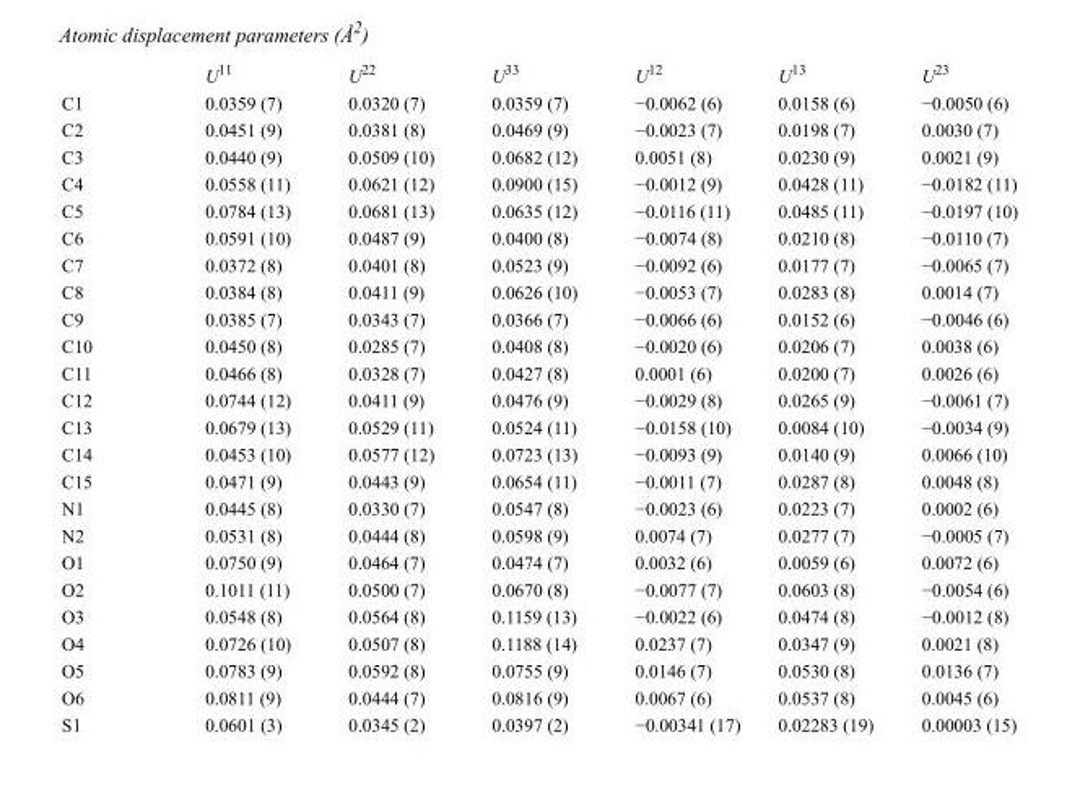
<table><thead><tr><td></td><td>U<sup>11</sup></td><td>U<sup>22</sup></td><td>U<sup>33</sup></td><td>U<sup>12</sup></td><td>U<sup>13</sup></td><td>U<sup>23</sup></td></tr></thead><tbody><tr><td>C1</td><td>0.0359 (7)</td><td>0.0320 (7)</td><td>0.0359 (7)</td><td>−0.0062 (6)</td><td>0.0158 (6)</td><td>−0.0050 (6)</td></tr><tr><td>C2</td><td>0.0451 (9)</td><td>0.0381 (8)</td><td>0.0469 (9)</td><td>−0.0023 (7)</td><td>0.0198 (7)</td><td>0.0030 (7)</td></tr><tr><td>C3</td><td>0.0440 (9)</td><td>0.0509 (10)</td><td>0.0682 (12)</td><td>0.0051 (8)</td><td>0.0230 (9)</td><td>0.0021 (9)</td></tr><tr><td>C4</td><td>0.0558 (11)</td><td>0.0621 (12)</td><td>0.0900 (15)</td><td>−0.0012 (9)</td><td>0.0428 (11)</td><td>−0.0182 (11)</td></tr><tr><td>C5</td><td>0.0784 (13)</td><td>0.0681 (13)</td><td>0.0635 (12)</td><td>−0.0116 (11)</td><td>0.0485 (11)</td><td>−0.0197 (10)</td></tr><tr><td>C6</td><td>0.0591 (10)</td><td>0.0487 (9)</td><td>0.0400 (8)</td><td>−0.0074 (8)</td><td>0.0210 (8)</td><td>−0.0110 (7)</td></tr><tr><td>C7</td><td>0.0372 (8)</td><td>0.0401 (8)</td><td>0.0523 (9)</td><td>−0.0092 (6)</td><td>0.0177 (7)</td><td>−0.0065 (7)</td></tr><tr><td>C8</td><td>0.0384 (8)</td><td>0.0411 (9)</td><td>0.0626 (10)</td><td>−0.0053 (7)</td><td>0.0283 (8)</td><td>0.0014 (7)</td></tr><tr><td>C9</td><td>0.0385 (7)</td><td>0.0343 (7)</td><td>0.0366 (7)</td><td>−0.0066 (6)</td><td>0.0152 (6)</td><td>−0.0046 (6)</td></tr><tr><td>C10</td><td>0.0450 (8)</td><td>0.0285 (7)</td><td>0.0408 (8)</td><td>−0.0020 (6)</td><td>0.0206 (7)</td><td>0.0038 (6)</td></tr><tr><td>C11</td><td>0.0466 (8)</td><td>0.0328 (7)</td><td>0.0427 (8)</td><td>0.0001 (6)</td><td>0.0200 (7)</td><td>0.0026 (6)</td></tr><tr><td>C12</td><td>0.0744 (12)</td><td>0.0411 (9)</td><td>0.0476 (9)</td><td>−0.0029 (8)</td><td>0.0265 (9)</td><td>−0.0061 (7)</td></tr><tr><td>C13</td><td>0.0679 (13)</td><td>0.0529 (11)</td><td>0.0524 (11)</td><td>−0.0158 (10)</td><td>0.0084 (10)</td><td>−0.0034 (9)</td></tr><tr><td>C14</td><td>0.0453 (10)</td><td>0.0577 (12)</td><td>0.0723 (13)</td><td>−0.0093 (9)</td><td>0.0140 (9)</td><td>0.0066 (10)</td></tr><tr><td>C15</td><td>0.0471 (9)</td><td>0.0443 (9)</td><td>0.0654 (11)</td><td>−0.0011 (7)</td><td>0.0287 (8)</td><td>0.0048 (8)</td></tr><tr><td>N1</td><td>0.0445 (8)</td><td>0.0330 (7)</td><td>0.0547 (8)</td><td>−0.0023 (6)</td><td>0.0223 (7)</td><td>0.0002 (6)</td></tr><tr><td>N2</td><td>0.0531 (8)</td><td>0.0444 (8)</td><td>0.0598 (9)</td><td>0.0074 (7)</td><td>0.0277 (7)</td><td>−0.0005 (7)</td></tr><tr><td>O1</td><td>0.0750 (9)</td><td>0.0464 (7)</td><td>0.0474 (7)</td><td>0.0032 (6)</td><td>0.0059 (6)</td><td>0.0072 (6)</td></tr><tr><td>O2</td><td>0.1011 (11)</td><td>0.0500 (7)</td><td>0.0670 (8)</td><td>−0.0077 (7)</td><td>0.0603 (8)</td><td>−0.0054 (6)</td></tr><tr><td>O3</td><td>0.0548 (8)</td><td>0.0564 (8)</td><td>0.1159 (13)</td><td>−0.0022 (6)</td><td>0.0474 (8)</td><td>−0.0012 (8)</td></tr><tr><td>O4</td><td>0.0726 (10)</td><td>0.0507 (8)</td><td>0.1188 (14)</td><td>0.0237 (7)</td><td>0.0347 (9)</td><td>0.0021 (8)</td></tr><tr><td>O5</td><td>0.0783 (9)</td><td>0.0592 (8)</td><td>0.0755 (9)</td><td>0.0146 (7)</td><td>0.0530 (8)</td><td>0.0136 (7)</td></tr><tr><td>O6</td><td>0.0811 (9)</td><td>0.0444 (7)</td><td>0.0816 (9)</td><td>0.0067 (6)</td><td>0.0537 (8)</td><td>0.0045 (6)</td></tr><tr><td>S1</td><td>0.0601 (3)</td><td>0.0345 (2)</td><td>0.0397 (2)</td><td>−0.00341 (17)</td><td>0.02283 (19)</td><td>0.00003 (15)</td></tr></tbody></table>